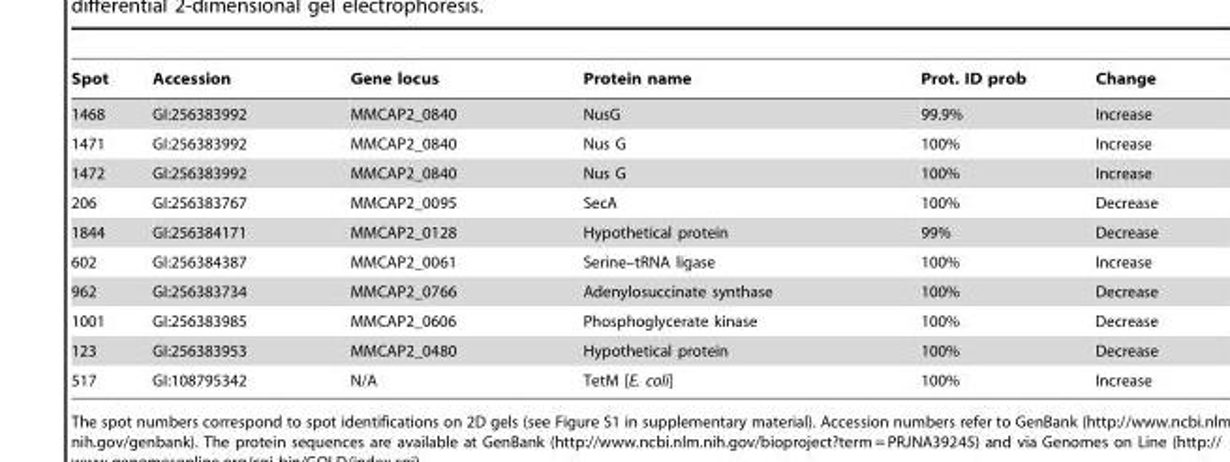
<table><thead><tr><td>Spot</td><td>Accession</td><td>Gene locus</td><td>Protein name</td><td>Prot. ID prob</td><td>Change</td></tr></thead><tbody><tr><td>1468</td><td>GI:256383992</td><td>MMCAP2_0840</td><td>NusG</td><td>99.9%</td><td>Increase</td></tr><tr><td>1471</td><td>GI:256383992</td><td>MMCAP2_0840</td><td>Nus G</td><td>100%</td><td>Increase</td></tr><tr><td>1472</td><td>GI:256383992</td><td>MMCAP2_0840</td><td>Nus G</td><td>100%</td><td>Increase</td></tr><tr><td>206</td><td>GI:256383767</td><td>MMCAP2_0095</td><td>SecA</td><td>100%</td><td>Decrease</td></tr><tr><td>1844</td><td>GI:256384171</td><td>MMCAP2_0128</td><td>Hypothetical protein</td><td>99%</td><td>Decrease</td></tr><tr><td>602</td><td>GI:256384387</td><td>MMCAP2_0061</td><td>Serine–tRNA ligase</td><td>100%</td><td>Increase</td></tr><tr><td>962</td><td>GI:256383734</td><td>MMCAP2_0766</td><td>Adenylosuccinate synthase</td><td>100%</td><td>Decrease</td></tr><tr><td>1001</td><td>GI:256383985</td><td>MMCAP2_0606</td><td>Phosphoglycerate kinase</td><td>100%</td><td>Decrease</td></tr><tr><td>123</td><td>GI:256383953</td><td>MMCAP2_0480</td><td>Hypothetical protein</td><td>100%</td><td>Decrease</td></tr><tr><td>517</td><td>GI:108795342</td><td>N/A</td><td>TetM [E. coli]</td><td>100%</td><td>Increase</td></tr></tbody></table>